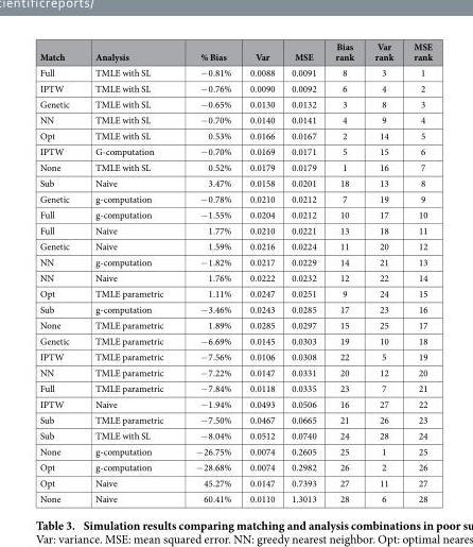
<table><thead><tr><td>Match</td><td>Analysis</td><td>% Bias</td><td>Var</td><td>MSE</td><td>Bias rank</td><td>Var rank</td><td>MSE rank</td></tr></thead><tbody><tr><td>Full</td><td>TMLE with SL</td><td>− 0.81%</td><td>0.0088</td><td>0.0091</td><td>8</td><td>3</td><td>1</td></tr><tr><td>IPTW</td><td>TMLE with SL</td><td>− 0.76%</td><td>0.0090</td><td>0.0092</td><td>6</td><td>4</td><td>2</td></tr><tr><td>Genetic</td><td>TMLE with SL</td><td>− 0.65%</td><td>0.0130</td><td>0.0132</td><td>3</td><td>8</td><td>3</td></tr><tr><td>NN</td><td>TMLE with SL</td><td>− 0.70%</td><td>0.0140</td><td>0.0141</td><td>4</td><td>9</td><td>4</td></tr><tr><td>Opt</td><td>TMLE with SL</td><td>0.53%</td><td>0.0166</td><td>0.0167</td><td>2</td><td>14</td><td>5</td></tr><tr><td>IPTW</td><td>G-computation</td><td>− 0.70%</td><td>0.0169</td><td>0.0171</td><td>5</td><td>15</td><td>6</td></tr><tr><td>None</td><td>TMLE with SL</td><td>0.52%</td><td>0.0179</td><td>0.0179</td><td>1</td><td>16</td><td>7</td></tr><tr><td>Sub</td><td>Naive</td><td>3.47%</td><td>0.0158</td><td>0.0201</td><td>18</td><td>13</td><td>8</td></tr><tr><td>Genetic</td><td>g-computation</td><td>− 0.78%</td><td>0.0210</td><td>0.0212</td><td>7</td><td>19</td><td>9</td></tr><tr><td>Full</td><td>g-computation</td><td>− 1.55%</td><td>0.0204</td><td>0.0212</td><td>10</td><td>17</td><td>10</td></tr><tr><td>Full</td><td>Naive</td><td>1.77%</td><td>0.0210</td><td>0.0221</td><td>13</td><td>18</td><td>11</td></tr><tr><td>Genetic</td><td>Naive</td><td>1.59%</td><td>0.0216</td><td>0.0224</td><td>11</td><td>20</td><td>12</td></tr><tr><td>NN</td><td>g-computation</td><td>− 1.82%</td><td>0.0217</td><td>0.0229</td><td>14</td><td>21</td><td>13</td></tr><tr><td>NN</td><td>Naive</td><td>1.76%</td><td>0.0222</td><td>0.0232</td><td>12</td><td>22</td><td>14</td></tr><tr><td>Opt</td><td>TMLE parametric</td><td>1.11%</td><td>0.0247</td><td>0.0251</td><td>9</td><td>24</td><td>15</td></tr><tr><td>Sub</td><td>g-computation</td><td>− 3.46%</td><td>0.0243</td><td>0.0285</td><td>17</td><td>23</td><td>16</td></tr><tr><td>None</td><td>TMLE parametric</td><td>1.89%</td><td>0.0285</td><td>0.0297</td><td>15</td><td>25</td><td>17</td></tr><tr><td>Genetic</td><td>TMLE parametric</td><td>− 6.69%</td><td>0.0145</td><td>0.0303</td><td>19</td><td>10</td><td>18</td></tr><tr><td>IPTW</td><td>TMLE parametric</td><td>− 7.56%</td><td>0.0106</td><td>0.0308</td><td>22</td><td>5</td><td>19</td></tr><tr><td>NN</td><td>TMLE parametric</td><td>− 7.22%</td><td>0.0147</td><td>0.0331</td><td>20</td><td>12</td><td>20</td></tr><tr><td>Full</td><td>TMLE parametric</td><td>− 7.84%</td><td>0.0118</td><td>0.0335</td><td>23</td><td>7</td><td>21</td></tr><tr><td>IPTW</td><td>Naive</td><td>− 1.94%</td><td>0.0493</td><td>0.0506</td><td>16</td><td>27</td><td>22</td></tr><tr><td>Sub</td><td>TMLE parametric</td><td>− 7.50%</td><td>0.0467</td><td>0.0665</td><td>21</td><td>26</td><td>23</td></tr><tr><td>Sub</td><td>TMLE with SL</td><td>− 8.04%</td><td>0.0512</td><td>0.0740</td><td>24</td><td>28</td><td>24</td></tr><tr><td>None</td><td>g-computation</td><td>− 26.75%</td><td>0.0074</td><td>0.2605</td><td>25</td><td>1</td><td>25</td></tr><tr><td>Opt</td><td>g-computation</td><td>− 28.68%</td><td>0.0074</td><td>0.2982</td><td>26</td><td>2</td><td>26</td></tr><tr><td>Opt</td><td>Naive</td><td>45.27%</td><td>0.0147</td><td>0.7393</td><td>27</td><td>11</td><td>27</td></tr><tr><td>None</td><td>Naive</td><td>60.41%</td><td>0.0110</td><td>1.3013</td><td>28</td><td>6</td><td>28</td></tr></tbody></table>